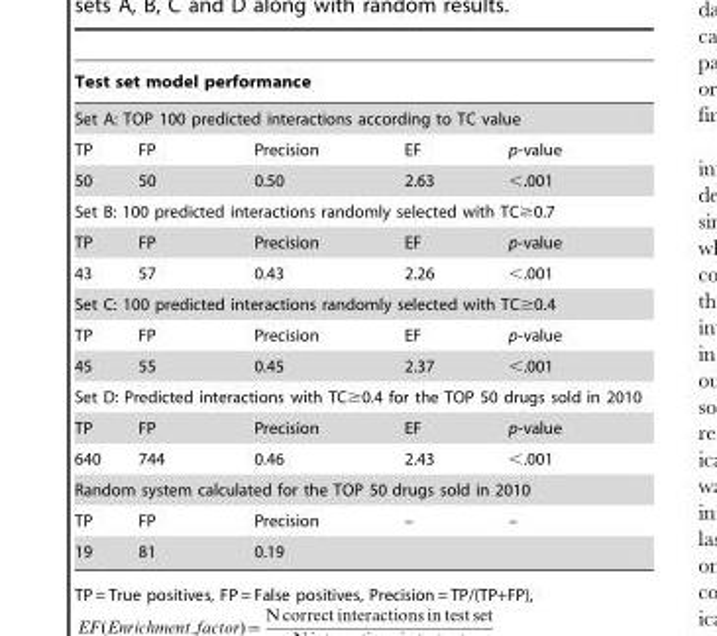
<table><thead><tr><td rowspan="2" colspan="5">Test set model performance Set A: TOP 100 predicted interactions according to TC value</td></tr><tr></tr><tr><td>TP</td><td>FP</td><td>Precision</td><td>EF</td><td>p-value</td></tr></thead><tbody><tr><td>50</td><td>50</td><td>0.50</td><td>2.63</td><td>&lt;.001</td></tr><tr><td colspan="5">Set B: 100 predicted interactions randomly selected with TC≥0.7</td></tr><tr><td>TP</td><td>FP</td><td>Precision</td><td>EF</td><td>p-value</td></tr><tr><td>43</td><td>57</td><td>0.43</td><td>2.26</td><td>&lt;.001</td></tr><tr><td colspan="5">Set C: 100 predicted interactions randomly selected with TC≥0.4</td></tr><tr><td>TP</td><td>FP</td><td>Precision</td><td>EF</td><td>p-value</td></tr><tr><td>45</td><td>55</td><td>0.45</td><td>2.37</td><td>&lt;.001</td></tr><tr><td colspan="5">Set D: Predicted interactions with TC≥0.4 for the TOP 50 drugs sold in 2010</td></tr><tr><td>TP</td><td>FP</td><td>Precision</td><td>EF</td><td>p-value</td></tr><tr><td>640</td><td>744</td><td>0.46</td><td>2.43</td><td>&lt;.001</td></tr><tr><td colspan="5">Random system calculated for the TOP 50 drugs sold in 2010</td></tr><tr><td>TP</td><td>FP</td><td>Precision</td><td>–</td><td>–</td></tr><tr><td>19</td><td>81</td><td>0.19</td><td></td><td></td></tr></tbody></table>